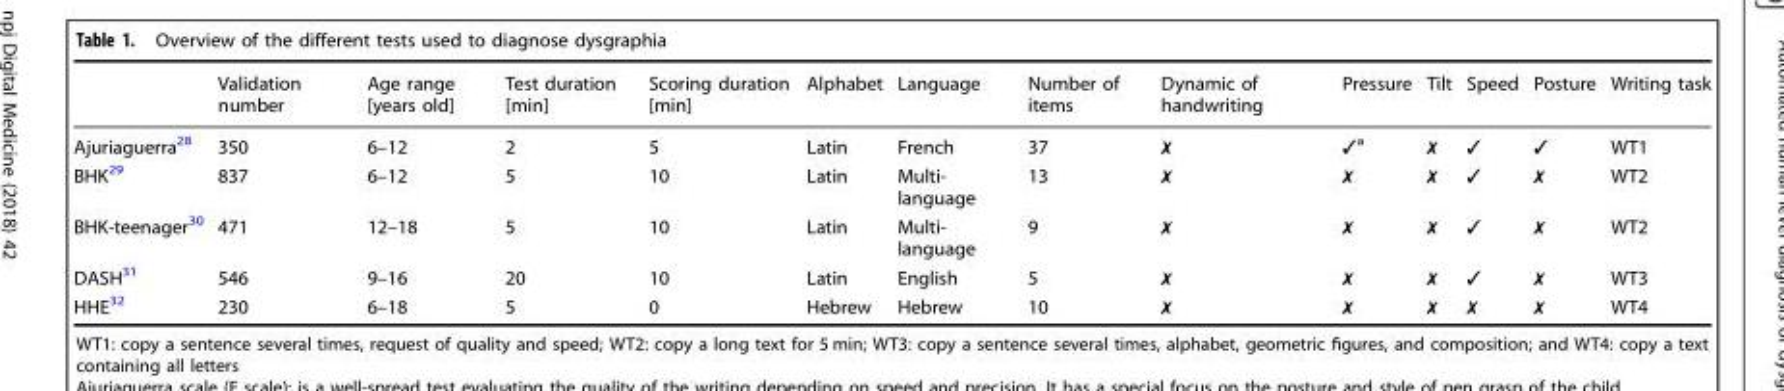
<table><thead><tr><td></td><td>Validation number</td><td>Age range [years old]</td><td>Test duration [min]</td><td>Scoring duration [min]</td><td>Alphabet</td><td>Language</td><td>Number of items</td><td>Dynamic of handwriting</td><td>Pressure</td><td>Tilt</td><td>Speed</td><td>Posture</td><td>Writing task</td></tr></thead><tbody><tr><td>Ajuriaguerra<sup>28</sup></td><td>350</td><td>6–12</td><td>2</td><td>5</td><td>Latin</td><td>French</td><td>37</td><td>✗</td><td>✓<sup>a</sup></td><td>✗</td><td>✓</td><td>✓</td><td>WT1</td></tr><tr><td>BHK<sup>29</sup></td><td>837</td><td>6–12</td><td>5</td><td>10</td><td>Latin</td><td>Multi- language</td><td>13</td><td>✗</td><td>✗</td><td>✗</td><td>✓</td><td>✗</td><td>WT2</td></tr><tr><td>BHK-teenager<sup>30</sup></td><td>471</td><td>12–18</td><td>5</td><td>10</td><td>Latin</td><td>Multi- language</td><td>9</td><td>✗</td><td>✗</td><td>✗</td><td>✓</td><td>✗</td><td>WT2</td></tr><tr><td>DASH<sup>31</sup></td><td>546</td><td>9–16</td><td>20</td><td>10</td><td>Latin</td><td>English</td><td>5</td><td>✗</td><td>✗</td><td>✗</td><td>✓</td><td>✗</td><td>WT3</td></tr><tr><td>HHE<sup>32</sup></td><td>230</td><td>6–18</td><td>5</td><td>0</td><td>Hebrew</td><td>Hebrew</td><td>10</td><td>✗</td><td>✗</td><td>✗</td><td>✗</td><td>✗</td><td>WT4</td></tr></tbody></table>